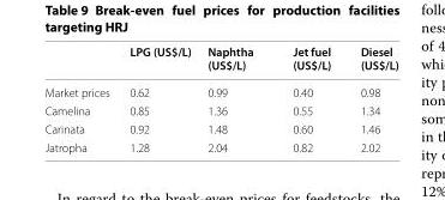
<table><thead><tr><td></td><td>LPG (US$/L)</td><td>Naphtha (US$/L)</td><td>Jet fuel (US$/L)</td><td>Diesel (US$/L)</td></tr></thead><tbody><tr><td>Market prices</td><td>0.62</td><td>0.99</td><td>0.40</td><td>0.98</td></tr><tr><td>Camelina</td><td>0.85</td><td>1.36</td><td>0.55</td><td>1.34</td></tr><tr><td>Carinata</td><td>0.92</td><td>1.48</td><td>0.60</td><td>1.46</td></tr><tr><td>Jatropha</td><td>1.28</td><td>2.04</td><td>0.82</td><td>2.02</td></tr></tbody></table>